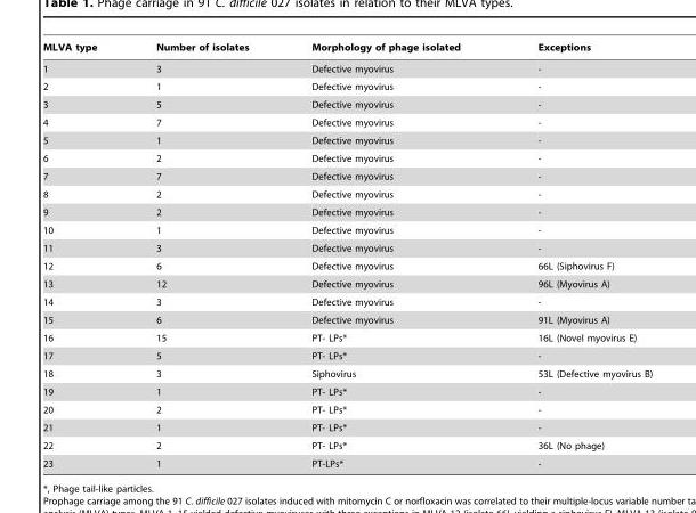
<table><thead><tr><td>MLVA type</td><td>Number of isolates</td><td>Morphology of phage isolated</td><td>Exceptions</td></tr></thead><tbody><tr><td>1</td><td>3</td><td>Defective myovirus</td><td>-</td></tr><tr><td>2</td><td>1</td><td>Defective myovirus</td><td>-</td></tr><tr><td>3</td><td>5</td><td>Defective myovirus</td><td>-</td></tr><tr><td>4</td><td>7</td><td>Defective myovirus</td><td>-</td></tr><tr><td>5</td><td>1</td><td>Defective myovirus</td><td>-</td></tr><tr><td>6</td><td>2</td><td>Defective myovirus</td><td>-</td></tr><tr><td>7</td><td>7</td><td>Defective myovirus</td><td>-</td></tr><tr><td>8</td><td>2</td><td>Defective myovirus</td><td>-</td></tr><tr><td>9</td><td>2</td><td>Defective myovirus</td><td>-</td></tr><tr><td>10</td><td>1</td><td>Defective myovirus</td><td>-</td></tr><tr><td>11</td><td>3</td><td>Defective myovirus</td><td>-</td></tr><tr><td>12</td><td>6</td><td>Defective myovirus</td><td>66L (Siphovirus F)</td></tr><tr><td>13</td><td>12</td><td>Defective myovirus</td><td>96L (Myovirus A)</td></tr><tr><td>14</td><td>3</td><td>Defective myovirus</td><td>-</td></tr><tr><td>15</td><td>6</td><td>Defective myovirus</td><td>91L (Myovirus A)</td></tr><tr><td>16</td><td>15</td><td>PT- LPs*</td><td>16L (Novel myovirus E)</td></tr><tr><td>17</td><td>5</td><td>PT- LPs*</td><td>-</td></tr><tr><td>18</td><td>3</td><td>Siphovirus</td><td>53L (Defective myovirus B)</td></tr><tr><td>19</td><td>1</td><td>PT- LPs*</td><td>-</td></tr><tr><td>20</td><td>2</td><td>PT- LPs*</td><td>-</td></tr><tr><td>21</td><td>1</td><td>PT- LPs*</td><td>-</td></tr><tr><td>22</td><td>2</td><td>PT- LPs*</td><td>36L (No phage)</td></tr><tr><td>23</td><td>1</td><td>PT-LPs*</td><td>-</td></tr></tbody></table>